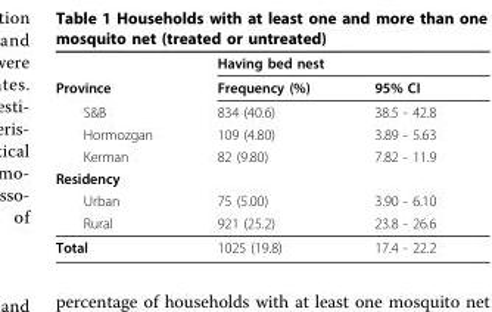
<table><thead><tr><td rowspan="8">Province S&amp;B Hormozgan Kerman Residency Urban Rural</td><td colspan="2">Having bed nest</td></tr><tr><td rowspan="7">Frequency (%) 834 (40.6) 109 (4.80) 82 (9.80) 75 (5.00) 921 (25.2)</td><td rowspan="7">95% CI 38.5 - 42.8 3.89 - 5.63 7.82 - 11.9 3.90 - 6.10 23.8 - 26.6</td></tr><tr></tr><tr></tr><tr></tr><tr></tr><tr></tr><tr></tr></thead><tbody><tr><td>Total</td><td>1025 (19.8)</td><td>17.4 - 22.2</td></tr></tbody></table>